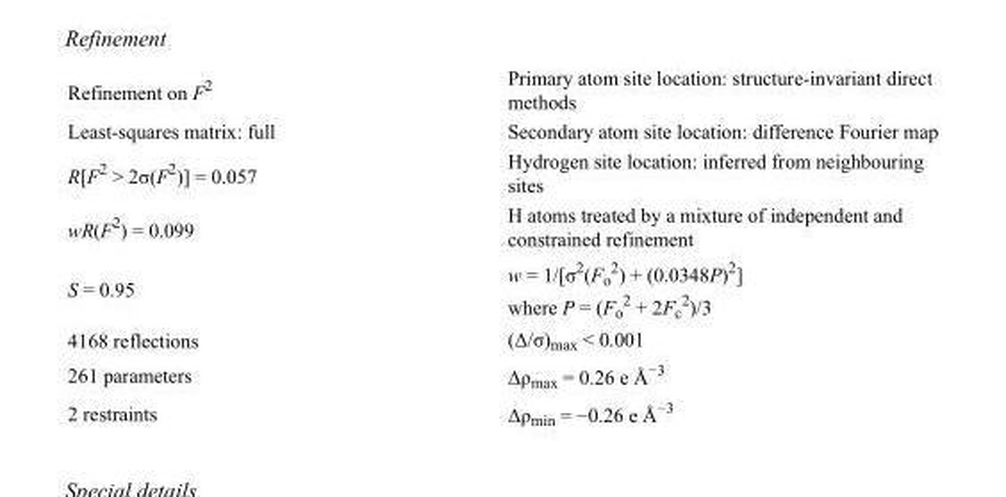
<table><tbody><tr><td>Refinement on F<sup>2</sup></td><td>Primary atom site location: structure-invariant direct methods</td></tr><tr><td>Least-squares matrix: full</td><td>Secondary atom site location: difference Fourier map</td></tr><tr><td>R[F<sup>2</sup> &gt; 2σ(F<sup>2</sup>)] = 0.057</td><td>Hydrogen site location: inferred from neighbouring sites</td></tr><tr><td>wR(F<sup>2</sup>) = 0.099</td><td>H atoms treated by a mixture of independent and constrained refinement</td></tr><tr><td>S = 0.95</td><td>w = 1/[σ<sup>2</sup>(F<sub>o</sub> <sup>2</sup>) + (0.0348P)<sup>2</sup>] where P = (F<sub>o</sub> <sup>2</sup> + 2F<sub>c</sub> <sup>2</sup>)/3</td></tr><tr><td>4168 reflections</td><td>(Δ/σ)<sub>max</sub> &lt; 0.001</td></tr><tr><td>261 parameters</td><td>Δρ<sub>max</sub> = 0.26 e Å<sup>−3</sup></td></tr><tr><td>2 restraints</td><td>Δρ<sub>min</sub> = −0.26 e Å<sup>−3</sup></td></tr></tbody></table>